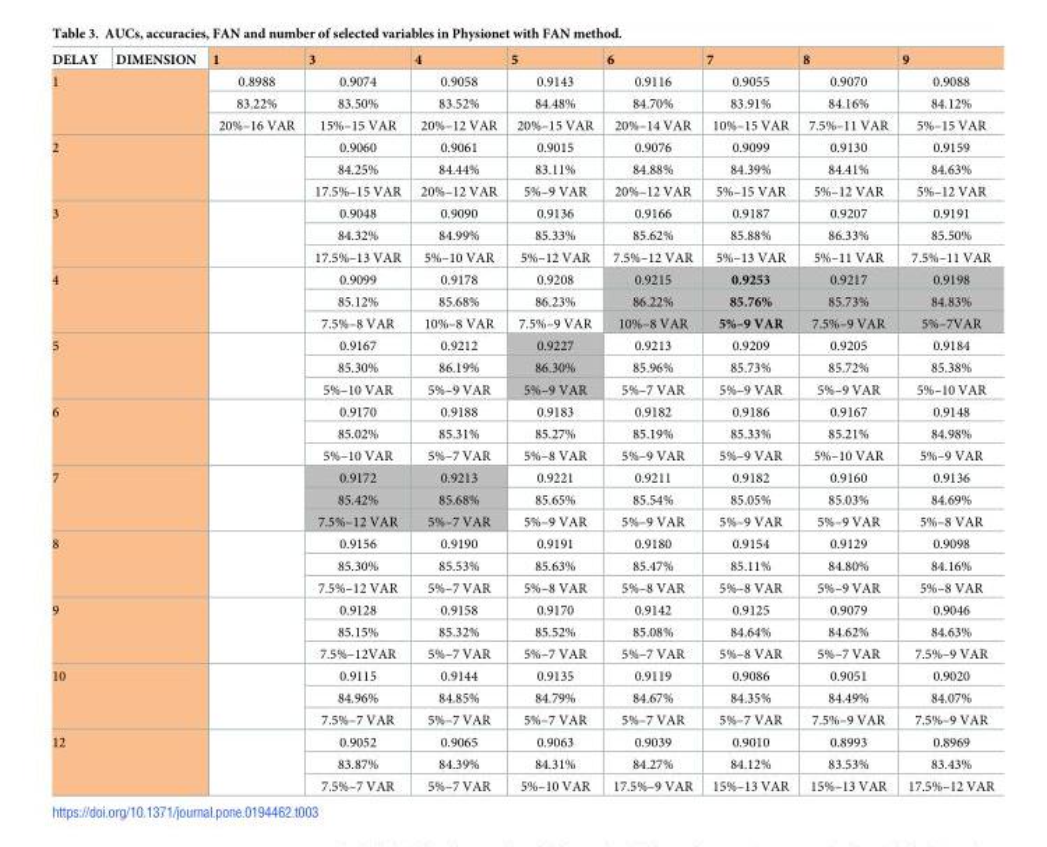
<table><thead><tr><td>DELAY</td><td>DIMENSION</td><td>1</td><td>3</td><td>4</td><td>5</td><td>6</td><td>7</td><td>8</td><td>9</td></tr></thead><tbody><tr><td rowspan="3" colspan="2">1</td><td>0.8988</td><td>0.9074</td><td>0.9058</td><td>0.9143</td><td>0.9116</td><td>0.9055</td><td>0.9070</td><td>0.9088</td></tr><tr><td>83.22%</td><td>83.50%</td><td>83.52%</td><td>84.48%</td><td>84.70%</td><td>83.91%</td><td>84.16%</td><td>84.12%</td></tr><tr><td>20%–16 VAR</td><td>15%–15 VAR</td><td>20%–12 VAR</td><td>20%–15 VAR</td><td>20%–14 VAR</td><td>10%–15 VAR</td><td>7.5%–11 VAR</td><td>5%–15 VAR</td></tr><tr><td rowspan="3" colspan="2">2</td><td rowspan="3"></td><td>0.9060</td><td>0.9061</td><td>0.9015</td><td>0.9076</td><td>0.9099</td><td>0.9130</td><td>0.9159</td></tr><tr><td>84.25%</td><td>84.44%</td><td>83.11%</td><td>84.88%</td><td>84.39%</td><td>84.41%</td><td>84.63%</td></tr><tr><td>17.5%–15 VAR</td><td>20%–12 VAR</td><td>5%–9 VAR</td><td>20%–12 VAR</td><td>5%–15 VAR</td><td>5%–12 VAR</td><td>5%–12 VAR</td></tr><tr><td rowspan="3" colspan="2">3</td><td rowspan="3"></td><td>0.9048</td><td>0.9090</td><td>0.9136</td><td>0.9166</td><td>0.9187</td><td>0.9207</td><td>0.9191</td></tr><tr><td>84.32%</td><td>84.99%</td><td>85.33%</td><td>85.62%</td><td>85.88%</td><td>86.33%</td><td>85.50%</td></tr><tr><td>17.5%–13 VAR</td><td>5%–10 VAR</td><td>5%–12 VAR</td><td>7.5%–12 VAR</td><td>5%–13 VAR</td><td>5%–11 VAR</td><td>7.5%–11 VAR</td></tr><tr><td rowspan="3" colspan="2">4</td><td rowspan="3"></td><td>0.9099</td><td>0.9178</td><td>0.9208</td><td>0.9215</td><td>0.9253</td><td>0.9217</td><td>0.9198</td></tr><tr><td>85.12%</td><td>85.68%</td><td>86.23%</td><td>86.22%</td><td>85.76%</td><td>85.73%</td><td>84.83%</td></tr><tr><td>7.5%–8 VAR</td><td>10%–8 VAR</td><td>7.5%–9 VAR</td><td>10%–8 VAR</td><td>5%–9 VAR</td><td>7.5%–9 VAR</td><td>5%–7VAR</td></tr><tr><td rowspan="3" colspan="2">5</td><td rowspan="3"></td><td>0.9167</td><td>0.9212</td><td>0.9227</td><td>0.9213</td><td>0.9209</td><td>0.9205</td><td>0.9184</td></tr><tr><td>85.30%</td><td>86.19%</td><td>86.30%</td><td>85.96%</td><td>85.73%</td><td>85.72%</td><td>85.38%</td></tr><tr><td>5%–10 VAR</td><td>5%–9 VAR</td><td>5%–9 VAR</td><td>5%–7 VAR</td><td>5%–9 VAR</td><td>5%–9 VAR</td><td>5%–10 VAR</td></tr><tr><td rowspan="3" colspan="2">6</td><td rowspan="3"></td><td>0.9170</td><td>0.9188</td><td>0.9183</td><td>0.9182</td><td>0.9186</td><td>0.9167</td><td>0.9148</td></tr><tr><td>85.02%</td><td>85.31%</td><td>85.27%</td><td>85.19%</td><td>85.33%</td><td>85.21%</td><td>84.98%</td></tr><tr><td>5%–10 VAR</td><td>5%–7 VAR</td><td>5%–8 VAR</td><td>5%–9 VAR</td><td>5%–9 VAR</td><td>5%–10 VAR</td><td>5%–9 VAR</td></tr><tr><td rowspan="3" colspan="2">7</td><td rowspan="3"></td><td>0.9172</td><td>0.9213</td><td>0.9221</td><td>0.9211</td><td>0.9182</td><td>0.9160</td><td>0.9136</td></tr><tr><td>85.42%</td><td>85.68%</td><td>85.65%</td><td>85.54%</td><td>85.05%</td><td>85.03%</td><td>84.69%</td></tr><tr><td>7.5%–12 VAR</td><td>5%–7 VAR</td><td>5%–9 VAR</td><td>5%–9 VAR</td><td>5%–9 VAR</td><td>5%–9 VAR</td><td>5%–8 VAR</td></tr><tr><td rowspan="3" colspan="2">8</td><td rowspan="3"></td><td>0.9156</td><td>0.9190</td><td>0.9191</td><td>0.9180</td><td>0.9154</td><td>0.9129</td><td>0.9098</td></tr><tr><td>85.30%</td><td>85.53%</td><td>85.63%</td><td>85.47%</td><td>85.11%</td><td>84.80%</td><td>84.16%</td></tr><tr><td>7.5%–12 VAR</td><td>5%–7 VAR</td><td>5%–8 VAR</td><td>5%–8 VAR</td><td>5%–8 VAR</td><td>5%–9 VAR</td><td>5%–8 VAR</td></tr><tr><td rowspan="3" colspan="2">9</td><td rowspan="3"></td><td>0.9128</td><td>0.9158</td><td>0.9170</td><td>0.9142</td><td>0.9125</td><td>0.9079</td><td>0.9046</td></tr><tr><td>85.15%</td><td>85.32%</td><td>85.52%</td><td>85.08%</td><td>84.64%</td><td>84.62%</td><td>84.63%</td></tr><tr><td>7.5%–12VAR</td><td>5%–7 VAR</td><td>5%–7 VAR</td><td>5%–7 VAR</td><td>5%–8 VAR</td><td>5%–7 VAR</td><td>7.5%–9 VAR</td></tr><tr><td rowspan="3" colspan="2">10</td><td rowspan="3"></td><td>0.9115</td><td>0.9144</td><td>0.9135</td><td>0.9119</td><td>0.9086</td><td>0.9051</td><td>0.9020</td></tr><tr><td>84.96%</td><td>84.85%</td><td>84.79%</td><td>84.67%</td><td>84.35%</td><td>84.49%</td><td>84.07%</td></tr><tr><td>7.5%–7 VAR</td><td>5%–7 VAR</td><td>5%–7 VAR</td><td>5%–7 VAR</td><td>5%–7 VAR</td><td>7.5%–9 VAR</td><td>7.5%–9 VAR</td></tr><tr><td rowspan="3" colspan="2">12</td><td rowspan="3"></td><td>0.9052</td><td>0.9065</td><td>0.9063</td><td>0.9039</td><td>0.9010</td><td>0.8993</td><td>0.8969</td></tr><tr><td>83.87%</td><td>84.39%</td><td>84.31%</td><td>84.27%</td><td>84.12%</td><td>83.53%</td><td>83.43%</td></tr><tr><td>7.5%–7 VAR</td><td>5%–7 VAR</td><td>5%–10 VAR</td><td>17.5%–9 VAR</td><td>15%–13 VAR</td><td>15%–13 VAR</td><td>17.5%–12 VAR</td></tr></tbody></table>